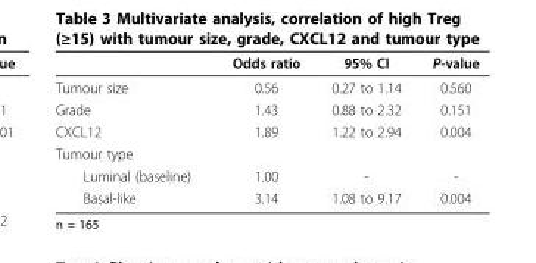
<table><thead><tr><td></td><td>Odds ratio</td><td>95% CI</td><td>P-value</td></tr></thead><tbody><tr><td>Tumour size</td><td>0.56</td><td>0.27 to 1.14</td><td>0.560</td></tr><tr><td>Grade</td><td>1.43</td><td>0.88 to 2.32</td><td>0.151</td></tr><tr><td>CXCL12</td><td>1.89</td><td>1.22 to 2.94</td><td>0.004</td></tr><tr><td colspan="4">Tumour type</td></tr><tr><td>Luminal (baseline)</td><td>1.00</td><td>-</td><td>-</td></tr><tr><td>Basal-like</td><td>3.14</td><td>1.08 to 9.17</td><td>0.004</td></tr></tbody></table>